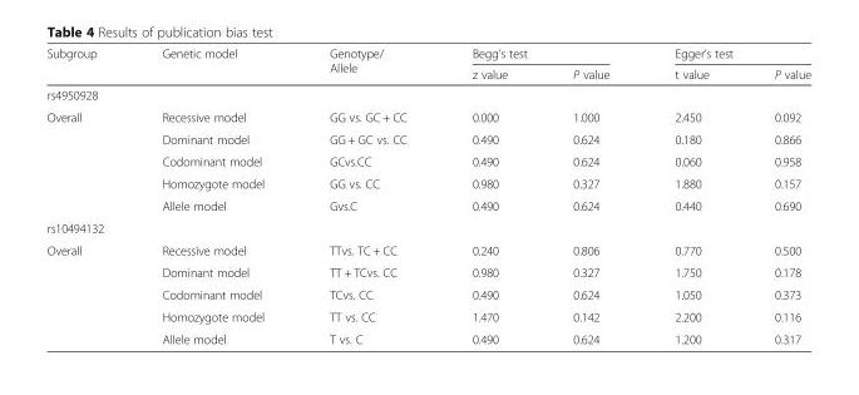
<table><thead><tr><td rowspan="2">Subgroup</td><td rowspan="2">Genetic model</td><td rowspan="2">Genotype/ Allele</td><td colspan="2">Begg’s test</td><td colspan="2">Egger’s test</td></tr><tr><td>z value</td><td>P value</td><td>t value</td><td>P value</td></tr></thead><tbody><tr><td colspan="7">rs4950928</td></tr><tr><td rowspan="5">Overall</td><td>Recessive model</td><td>GG vs. GC + CC</td><td>0.000</td><td>1.000</td><td>2.450</td><td>0.092</td></tr><tr><td>Dominant model</td><td>GG + GC vs. CC</td><td>0.490</td><td>0.624</td><td>0.180</td><td>0.866</td></tr><tr><td>Codominant model</td><td>GCvs.CC</td><td>0.490</td><td>0.624</td><td>0.060</td><td>0.958</td></tr><tr><td>Homozygote model</td><td>GG vs. CC</td><td>0.980</td><td>0.327</td><td>1.880</td><td>0.157</td></tr><tr><td>Allele model</td><td>Gvs.C</td><td>0.490</td><td>0.624</td><td>0.440</td><td>0.690</td></tr><tr><td colspan="7">rs10494132</td></tr><tr><td rowspan="5">Overall</td><td>Recessive model</td><td>TTvs. TC + CC</td><td>0.240</td><td>0.806</td><td>0.770</td><td>0.500</td></tr><tr><td>Dominant model</td><td>TT + TCvs. CC</td><td>0.980</td><td>0.327</td><td>1.750</td><td>0.178</td></tr><tr><td>Codominant model</td><td>TCvs. CC</td><td>0.490</td><td>0.624</td><td>1.050</td><td>0.373</td></tr><tr><td>Homozygote model</td><td>TT vs. CC</td><td>1.470</td><td>0.142</td><td>2.200</td><td>0.116</td></tr><tr><td>Allele model</td><td>T vs. C</td><td>0.490</td><td>0.624</td><td>1.200</td><td>0.317</td></tr></tbody></table>